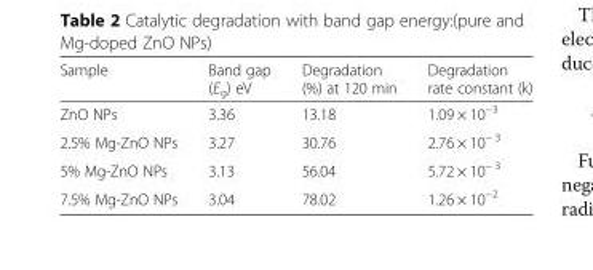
<table><thead><tr><td>Sample</td><td>Band gap (E<sub>g</sub>) eV</td><td>Degradation (%) at 120 min</td><td>Degradation rate constant (k)</td></tr></thead><tbody><tr><td>ZnO NPs</td><td>3.36</td><td>13.18</td><td>1.09 × 10<sup>−3</sup></td></tr><tr><td>2.5% Mg-ZnO NPs</td><td>3.27</td><td>30.76</td><td>2.76 × 10<sup>− 3</sup></td></tr><tr><td>5% Mg-ZnO NPs</td><td>3.13</td><td>56.04</td><td>5.72 × 10<sup>− 3</sup></td></tr><tr><td>7.5% Mg-ZnO NPs</td><td>3.04</td><td>78.02</td><td>1.26 × 10<sup>−2</sup></td></tr></tbody></table>